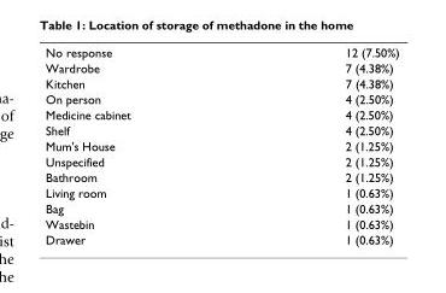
<table><tbody><tr><td>No response</td><td>12 (7.50%)</td></tr><tr><td>Wardrobe</td><td>7 (4.38%)</td></tr><tr><td>Kitchen</td><td>7 (4.38%)</td></tr><tr><td>On person</td><td>4 (2.50%)</td></tr><tr><td>Medicine cabinet</td><td>4 (2.50%)</td></tr><tr><td>Shelf</td><td>4 (2.50%)</td></tr><tr><td>Mum&#x27;s House</td><td>2 (1.25%)</td></tr><tr><td>Unspecified</td><td>2 (1.25%)</td></tr><tr><td>Bathroom</td><td>2 (1.25%)</td></tr><tr><td>Living room</td><td>1 (0.63%)</td></tr><tr><td>Bag</td><td>1 (0.63%)</td></tr><tr><td>Wastebin</td><td>1 (0.63%)</td></tr><tr><td>Drawer</td><td>1 (0.63%)</td></tr></tbody></table>